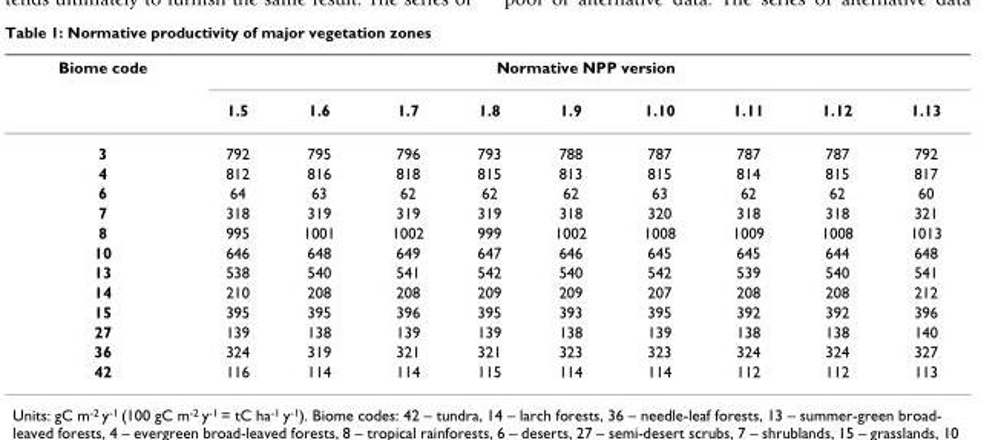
<table><thead><tr><td rowspan="2">Biome code</td><td colspan="9">Normative NPP version</td></tr><tr><td>1.5</td><td>1.6</td><td>1.7</td><td>1.8</td><td>1.9</td><td>1.10</td><td>1.11</td><td>1.12</td><td>1.13</td></tr></thead><tbody><tr><td>3</td><td>792</td><td>795</td><td>796</td><td>793</td><td>788</td><td>787</td><td>787</td><td>787</td><td>792</td></tr><tr><td>4</td><td>812</td><td>816</td><td>818</td><td>815</td><td>813</td><td>815</td><td>814</td><td>815</td><td>817</td></tr><tr><td>6</td><td>64</td><td>63</td><td>62</td><td>62</td><td>62</td><td>63</td><td>62</td><td>62</td><td>60</td></tr><tr><td>7</td><td>318</td><td>319</td><td>319</td><td>319</td><td>318</td><td>320</td><td>318</td><td>318</td><td>321</td></tr><tr><td>8</td><td>995</td><td>1001</td><td>1002</td><td>999</td><td>1002</td><td>1008</td><td>1009</td><td>1008</td><td>1013</td></tr><tr><td>10</td><td>646</td><td>648</td><td>649</td><td>647</td><td>646</td><td>645</td><td>645</td><td>644</td><td>648</td></tr><tr><td>13</td><td>538</td><td>540</td><td>541</td><td>542</td><td>540</td><td>542</td><td>539</td><td>540</td><td>541</td></tr><tr><td>14</td><td>210</td><td>208</td><td>208</td><td>209</td><td>209</td><td>207</td><td>208</td><td>208</td><td>212</td></tr><tr><td>15</td><td>395</td><td>395</td><td>396</td><td>395</td><td>393</td><td>395</td><td>392</td><td>392</td><td>396</td></tr><tr><td>27</td><td>139</td><td>138</td><td>139</td><td>139</td><td>138</td><td>139</td><td>138</td><td>138</td><td>140</td></tr><tr><td>36</td><td>324</td><td>319</td><td>321</td><td>321</td><td>323</td><td>323</td><td>324</td><td>324</td><td>327</td></tr><tr><td>42</td><td>116</td><td>114</td><td>114</td><td>115</td><td>114</td><td>114</td><td>112</td><td>112</td><td>113</td></tr></tbody></table>